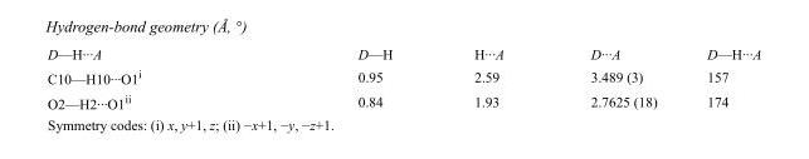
<table><tbody><tr><td>D—H···A</td><td>D—H</td><td>H···A</td><td>D···A</td><td>D—H···A</td></tr><tr><td>C10—H10···O1<sup>i</sup></td><td>0.95</td><td>2.59</td><td>3.489 (3)</td><td>157</td></tr><tr><td>O2—H2···O1<sup>ii</sup></td><td>0.84</td><td>1.93</td><td>2.7625 (18)</td><td>174</td></tr></tbody></table>